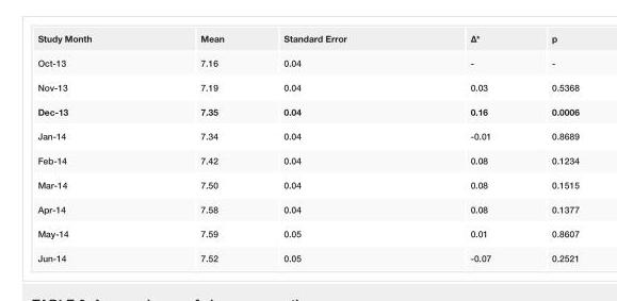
<table><tbody><tr><td>Study Month</td><td>Mean</td><td>Standard Error</td><td>Δ*</td><td>p</td></tr><tr><td>Oct-13</td><td>7.16</td><td>0.04</td><td>-</td><td>-</td></tr><tr><td>Nov-13</td><td>7.19</td><td>0.04</td><td>0.03</td><td>0.5368</td></tr><tr><td>Dec-13</td><td>7.35</td><td>0.04</td><td>0.16</td><td>0.0006</td></tr><tr><td>Jan-14</td><td>7.34</td><td>0.04</td><td>-0.01</td><td>0.8689</td></tr><tr><td>Feb-14</td><td>7.42</td><td>0.04</td><td>0.08</td><td>0.1234</td></tr><tr><td>Mar-14</td><td>7.50</td><td>0.04</td><td>0.08</td><td>0.1515</td></tr><tr><td>Apr-14</td><td>7.58</td><td>0.04</td><td>0.08</td><td>0.1377</td></tr><tr><td>May-14</td><td>7.59</td><td>0.05</td><td>0.01</td><td>0.8607</td></tr><tr><td>Jun-14</td><td>7.52</td><td>0.05</td><td>-0.07</td><td>0.2521</td></tr></tbody></table>